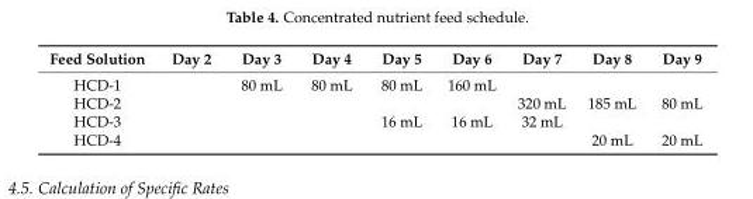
<table><thead><tr><td>Feed Solution</td><td>Day 2</td><td>Day 3</td><td>Day 4</td><td>Day 5</td><td>Day 6</td><td>Day 7</td><td>Day 8</td><td>Day 9</td></tr></thead><tbody><tr><td>HCD-1</td><td></td><td>80 mL</td><td>80 mL</td><td>80 mL</td><td>160 mL</td><td></td><td></td><td></td></tr><tr><td>HCD-2</td><td></td><td></td><td></td><td></td><td></td><td>320 mL</td><td>185 mL</td><td>80 mL</td></tr><tr><td>HCD-3</td><td></td><td></td><td></td><td>16 mL</td><td>16 mL</td><td>32 mL</td><td></td><td></td></tr><tr><td>HCD-4</td><td></td><td></td><td></td><td></td><td></td><td></td><td>20 mL</td><td>20 mL</td></tr></tbody></table>